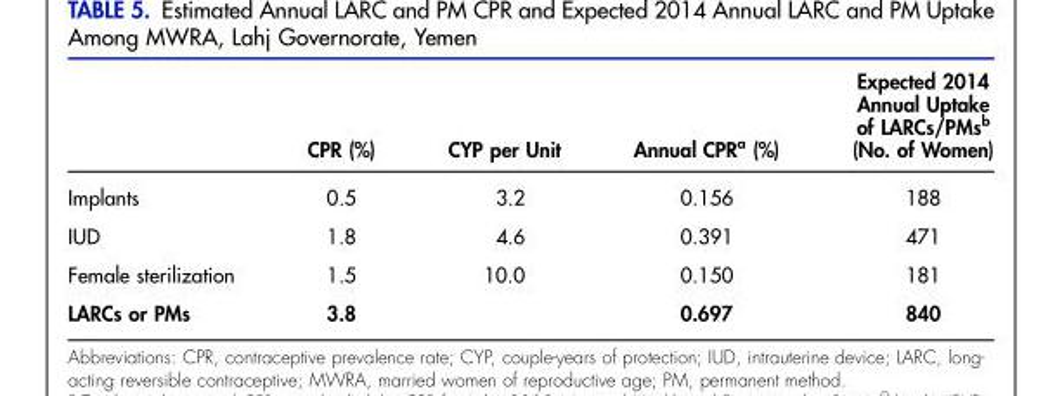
<table><thead><tr><td></td><td>CPR (%)</td><td>CYP per Unit</td><td>Annual CPR<sup>a</sup> (%)</td><td>Expected 2014 Annual Uptake of LARCs/PMs<sup>b</sup> (No. of Women)</td></tr></thead><tbody><tr><td>Implants</td><td>0.5</td><td>3.2</td><td>0.156</td><td>188</td></tr><tr><td>IUD</td><td>1.8</td><td>4.6</td><td>0.391</td><td>471</td></tr><tr><td>Female sterilization</td><td>1.5</td><td>10.0</td><td>0.150</td><td>181</td></tr><tr><td>LARCs or PMs</td><td>3.8</td><td></td><td>0.697</td><td>840</td></tr></tbody></table>